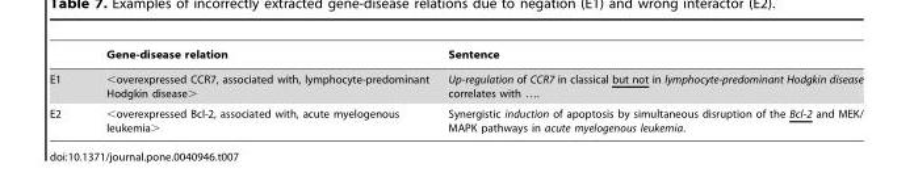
<table><thead><tr><td></td><td>Gene-disease relation</td><td>Sentence</td></tr></thead><tbody><tr><td>E1</td><td>&lt;overexpressed CCR7, associated with, lymphocyte-predominant Hodgkin disease&gt;</td><td>Up-regulation of CCR7 in classical but not in lymphocyte-predominant Hodgkin disease correlates with ….</td></tr><tr><td>E2</td><td>&lt;overexpressed Bcl-2, associated with, acute myelogenous leukemia&gt;</td><td>Synergistic induction of apoptosis by simultaneous disruption of the Bcl-2 and MEK/ MAPK pathways in acute myelogenous leukemia.</td></tr></tbody></table>